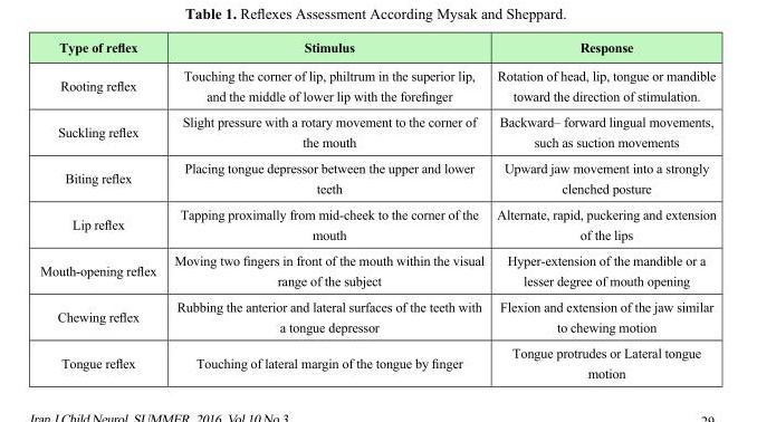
<table><thead><tr><td>Type of reflex</td><td>Stimulus</td><td>Response</td></tr></thead><tbody><tr><td>Rooting reflex</td><td>Touching the corner of lip, philtrum in the superior lip, and the middle of lower lip with the forefinger</td><td>Rotation of head, lip, tongue or mandible toward the direction of stimulation.</td></tr><tr><td>Suckling reflex</td><td>Slight pressure with a rotary movement to the corner of the mouth</td><td>Backward– forward lingual movements, such as suction movements</td></tr><tr><td>Biting reflex</td><td>Placing tongue depressor between the upper and lower teeth</td><td>Upward jaw movement into a strongly clenched posture</td></tr><tr><td>Lip reflex</td><td>Tapping proximally from mid-cheek to the corner of the mouth</td><td>Alternate, rapid, puckering and extension of the lips</td></tr><tr><td>Mouth-opening reflex</td><td>Moving two fingers in front of the mouth within the visual range of the subject</td><td>Hyper-extension of the mandible or a lesser degree of mouth opening</td></tr><tr><td>Chewing reflex</td><td>Rubbing the anterior and lateral surfaces of the teeth with a tongue depressor</td><td>Flexion and extension of the jaw similar to chewing motion</td></tr><tr><td>Tongue reflex</td><td>Touching of lateral margin of the tongue by finger</td><td>Tongue protrudes or Lateral tongue motion</td></tr></tbody></table>